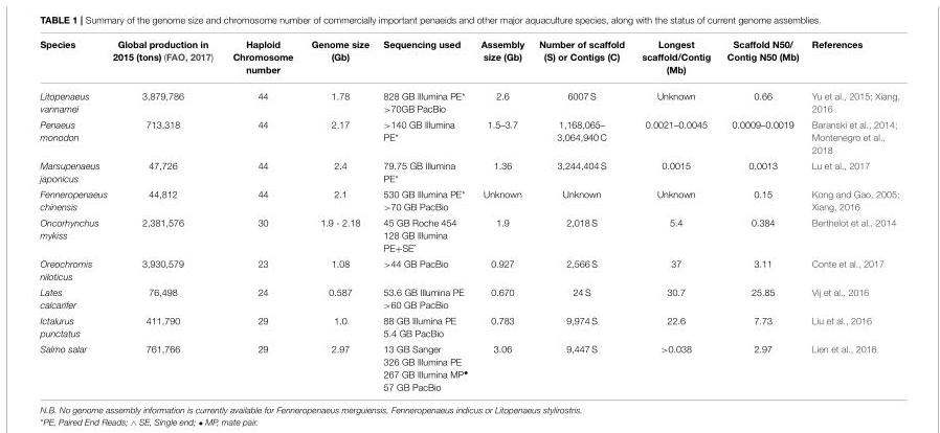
<table><thead><tr><td>Species</td><td>Global production in 2015 (tons) (FAO, 2017)</td><td>Haploid Chromosome number</td><td>Genome size (Gb)</td><td>Sequencing used</td><td>Assembly size (Gb)</td><td>Number of scaffold (S) or Contigs (C)</td><td>Longest scaffold/Contig (Mb)</td><td>Scaffold N50/ Contig N50 (Mb)</td><td>References</td></tr></thead><tbody><tr><td>Litopenaeus vannamei</td><td>3,879,786</td><td>44</td><td>1.78</td><td>828 GB Illumina PE* &gt;70GB PacBio</td><td>2.6</td><td>6007 S</td><td>Unknown</td><td>0.66</td><td>Yu et al., 2015; Xiang, 2016</td></tr><tr><td>Penaeus monodon</td><td>713,318</td><td>44</td><td>2.17</td><td>&gt;140 GB Illumina PE*</td><td>1.5–3.7</td><td>1,168,065– 3,064,940 C</td><td>0.0021–0.0045</td><td>0.0009–0.0019</td><td>Baranski et al., 2014; Montenegro et al., 2018</td></tr><tr><td>Marsupenaeus japonicus</td><td>47,726</td><td>44</td><td>2.4</td><td>79.75 GB Illumina PE*</td><td>1.36</td><td>3,244,404 S</td><td>0.0015</td><td>0.0013</td><td>Lu et al., 2017</td></tr><tr><td>Fenneropenaeus chinensis</td><td>44,812</td><td>44</td><td>2.1</td><td>530 GB Illumina PE* &gt;70 GB PacBio</td><td>Unknown</td><td>Unknown</td><td>Unknown</td><td>0.15</td><td>Kong and Gao, 2005; Xiang, 2016</td></tr><tr><td>Oncorhynchus mykiss</td><td>2,381,576</td><td>30</td><td>1.9 - 2.18</td><td>45 GB Roche 454 128 GB Illumina PE+SEˆ</td><td>1.9</td><td>2,018 S</td><td>5.4</td><td>0.384</td><td>Berthelot et al., 2014</td></tr><tr><td>Oreochromis niloticus</td><td>3,930,579</td><td>23</td><td>1.08</td><td>&gt;44 GB PacBio</td><td>0.927</td><td>2,566 S</td><td>37</td><td>3.11</td><td>Conte et al., 2017</td></tr><tr><td>Lates calcarifer</td><td>76,498</td><td>24</td><td>0.587</td><td>53.6 GB Illumina PE &gt;60 GB PacBio</td><td>0.670</td><td>24 S</td><td>30.7</td><td>25.85</td><td>Vij et al., 2016</td></tr><tr><td>Ictalurus punctatus</td><td>411,790</td><td>29</td><td>1.0</td><td>88 GB Illumina PE 5.4 GB PacBio</td><td>0.783</td><td>9,974 S</td><td>22.6</td><td>7.73</td><td>Liu et al., 2016</td></tr><tr><td>Salmo salar</td><td>761,766</td><td>29</td><td>2.97</td><td>13 GB Sanger 326 GB Illumina PE 267 GB Illumina MP<sup>•</sup> 57 GB PacBio</td><td>3.06</td><td>9,447 S</td><td>&gt;0.038</td><td>2.97</td><td>Lien et al., 2016</td></tr></tbody></table>